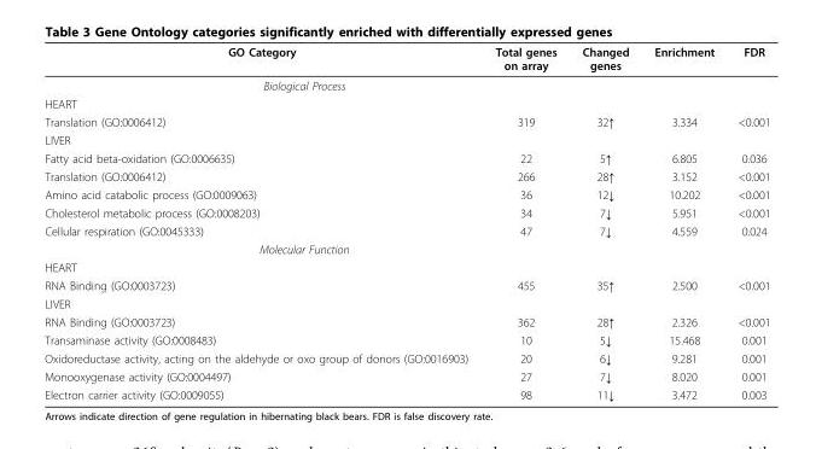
<table><thead><tr><td>GO Category</td><td>Total genes on array</td><td>Changed genes</td><td>Enrichment</td><td>FDR</td></tr></thead><tbody><tr><td colspan="5">Biological Process</td></tr><tr><td colspan="5">HEART</td></tr><tr><td>Translation (GO:0006412)</td><td>319</td><td>32↑</td><td>3.334</td><td>&lt;0.001</td></tr><tr><td colspan="5">LIVER</td></tr><tr><td>Fatty acid beta-oxidation (GO:0006635)</td><td>22</td><td>5↑</td><td>6.805</td><td>0.036</td></tr><tr><td>Translation (GO:0006412)</td><td>266</td><td>28↑</td><td>3.152</td><td>&lt;0.001</td></tr><tr><td>Amino acid catabolic process (GO:0009063)</td><td>36</td><td>12↓</td><td>10.202</td><td>&lt;0.001</td></tr><tr><td>Cholesterol metabolic process (GO:0008203)</td><td>34</td><td>7↓</td><td>5.951</td><td>&lt;0.001</td></tr><tr><td>Cellular respiration (GO:0045333)</td><td>47</td><td>7↓</td><td>4.559</td><td>0.024</td></tr><tr><td colspan="5">Molecular Function</td></tr><tr><td colspan="5">HEART</td></tr><tr><td>RNA Binding (GO:0003723)</td><td>455</td><td>35↑</td><td>2.500</td><td>&lt;0.001</td></tr><tr><td colspan="5">LIVER</td></tr><tr><td>RNA Binding (GO:0003723)</td><td>362</td><td>28↑</td><td>2.326</td><td>&lt;0.001</td></tr><tr><td>Transaminase activity (GO:0008483)</td><td>10</td><td>5↓</td><td>15.468</td><td>0.001</td></tr><tr><td>Oxidoreductase activity, acting on the aldehyde or oxo group of donors (GO:0016903)</td><td>20</td><td>6↓</td><td>9.281</td><td>0.001</td></tr><tr><td>Monooxygenase activity (GO:0004497)</td><td>27</td><td>7↓</td><td>8.020</td><td>0.001</td></tr><tr><td>Electron carrier activity (GO:0009055)</td><td>98</td><td>11↓</td><td>3.472</td><td>0.003</td></tr></tbody></table>